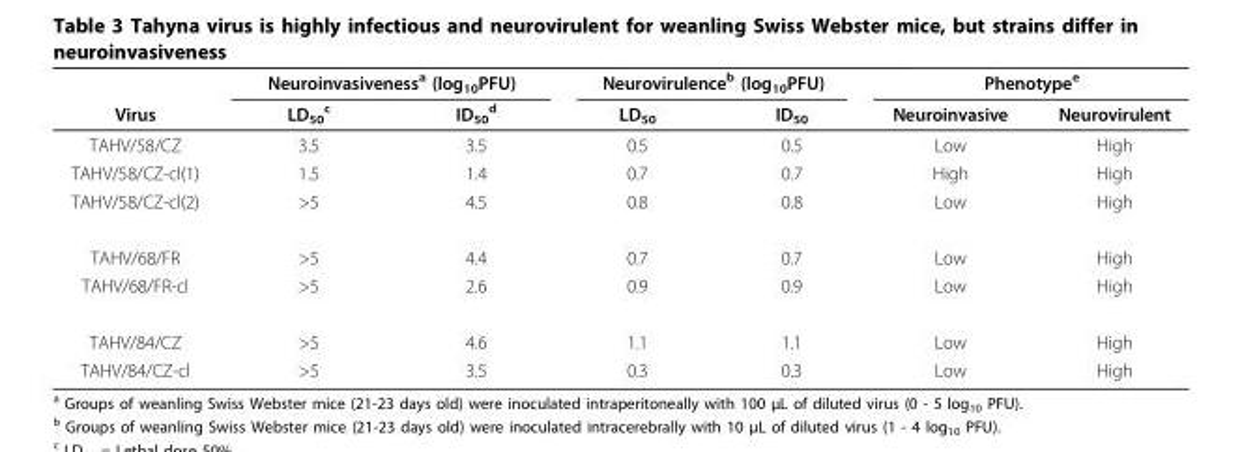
<table><thead><tr><td rowspan="2">Virus</td><td colspan="2">Neuroinvasiveness<sup>a</sup> (log<sub>10</sub>PFU)</td><td colspan="2">Neurovirulence<sup>b</sup> (log<sub>10</sub>PFU)</td><td colspan="2">Phenotype<sup>e</sup></td></tr><tr><td>LD<sub>50</sub> <sup>c</sup></td><td>ID<sub>50</sub> <sup>d</sup></td><td>LD<sub>50</sub></td><td>ID<sub>50</sub></td><td>Neuroinvasive</td><td>Neurovirulent</td></tr></thead><tbody><tr><td>TAHV/58/CZ</td><td>3.5</td><td>3.5</td><td>0.5</td><td>0.5</td><td>Low</td><td>High</td></tr><tr><td>TAHV/58/CZ-cl(1)</td><td>1.5</td><td>1.4</td><td>0.7</td><td>0.7</td><td>High</td><td>High</td></tr><tr><td>TAHV/58/CZ-cl(2)</td><td>&gt;5</td><td>4.5</td><td>0.8</td><td>0.8</td><td>Low</td><td>High</td></tr><tr><td>TAHV/68/FR</td><td>&gt;5</td><td>4.4</td><td>0.7</td><td>0.7</td><td>Low</td><td>High</td></tr><tr><td>TAHV/68/FR-cl</td><td>&gt;5</td><td>2.6</td><td>0.9</td><td>0.9</td><td>Low</td><td>High</td></tr><tr><td>TAHV/84/CZ</td><td>&gt;5</td><td>4.6</td><td>1.1</td><td>1.1</td><td>Low</td><td>High</td></tr><tr><td>TAHV/84/CZ-cl</td><td>&gt;5</td><td>3.5</td><td>0.3</td><td>0.3</td><td>Low</td><td>High</td></tr></tbody></table>